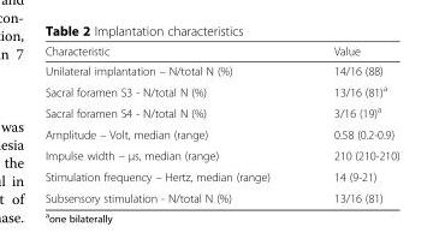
<table><thead><tr><td>Characteristic</td><td>Value</td></tr></thead><tbody><tr><td>Unilateral implantation – N/total N (%)</td><td>14/16 (88)</td></tr><tr><td>Sacral foramen S3 - N/total N (%)</td><td>13/16 (81)<sup>a</sup></td></tr><tr><td>Sacral foramen S4 - N/total N (%)</td><td>3/16 (19)<sup>a</sup></td></tr><tr><td>Amplitude – Volt, median (range)</td><td>0.58 (0.2-0.9)</td></tr><tr><td>Impulse width – μs, median (range)</td><td>210 (210-210)</td></tr><tr><td>Stimulation frequency – Hertz, median (range)</td><td>14 (9-21)</td></tr><tr><td>Subsensory stimulation - N/total N (%)</td><td>13/16 (81)</td></tr></tbody></table>